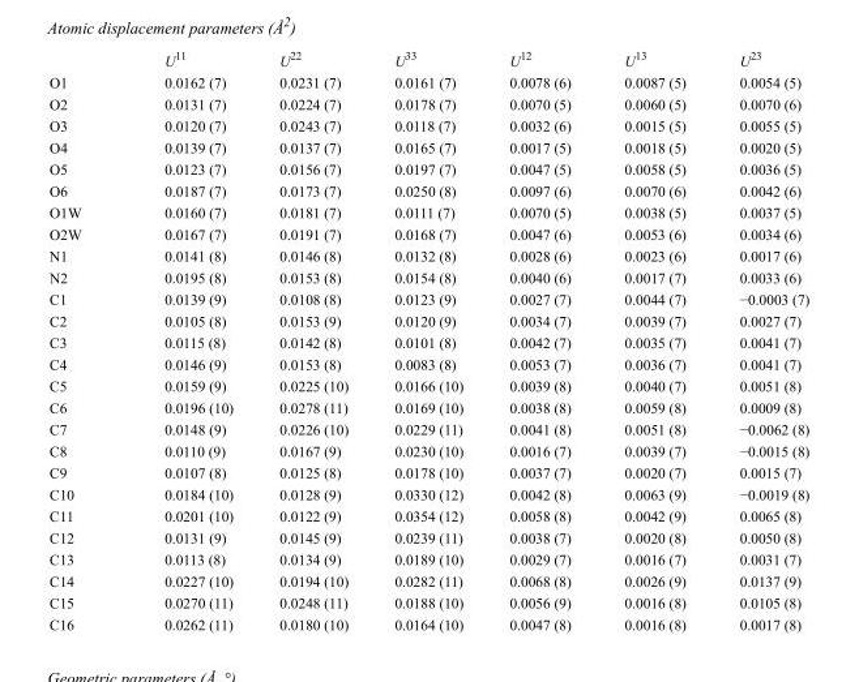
<table><thead><tr><td></td><td>U<sup>11</sup></td><td>U<sup>22</sup></td><td>U<sup>33</sup></td><td>U<sup>12</sup></td><td>U<sup>13</sup></td><td>U<sup>23</sup></td></tr></thead><tbody><tr><td>O1</td><td>0.0162 (7)</td><td>0.0231 (7)</td><td>0.0161 (7)</td><td>0.0078 (6)</td><td>0.0087 (5)</td><td>0.0054 (5)</td></tr><tr><td>O2</td><td>0.0131 (7)</td><td>0.0224 (7)</td><td>0.0178 (7)</td><td>0.0070 (5)</td><td>0.0060 (5)</td><td>0.0070 (6)</td></tr><tr><td>O3</td><td>0.0120 (7)</td><td>0.0243 (7)</td><td>0.0118 (7)</td><td>0.0032 (6)</td><td>0.0015 (5)</td><td>0.0055 (5)</td></tr><tr><td>O4</td><td>0.0139 (7)</td><td>0.0137 (7)</td><td>0.0165 (7)</td><td>0.0017 (5)</td><td>0.0018 (5)</td><td>0.0020 (5)</td></tr><tr><td>O5</td><td>0.0123 (7)</td><td>0.0156 (7)</td><td>0.0197 (7)</td><td>0.0047 (5)</td><td>0.0058 (5)</td><td>0.0036 (5)</td></tr><tr><td>O6</td><td>0.0187 (7)</td><td>0.0173 (7)</td><td>0.0250 (8)</td><td>0.0097 (6)</td><td>0.0070 (6)</td><td>0.0042 (6)</td></tr><tr><td>O1W</td><td>0.0160 (7)</td><td>0.0181 (7)</td><td>0.0111 (7)</td><td>0.0070 (5)</td><td>0.0038 (5)</td><td>0.0037 (5)</td></tr><tr><td>O2W</td><td>0.0167 (7)</td><td>0.0191 (7)</td><td>0.0168 (7)</td><td>0.0047 (6)</td><td>0.0053 (6)</td><td>0.0034 (6)</td></tr><tr><td>N1</td><td>0.0141 (8)</td><td>0.0146 (8)</td><td>0.0132 (8)</td><td>0.0028 (6)</td><td>0.0023 (6)</td><td>0.0017 (6)</td></tr><tr><td>N2</td><td>0.0195 (8)</td><td>0.0153 (8)</td><td>0.0154 (8)</td><td>0.0040 (6)</td><td>0.0017 (7)</td><td>0.0033 (6)</td></tr><tr><td>C1</td><td>0.0139 (9)</td><td>0.0108 (8)</td><td>0.0123 (9)</td><td>0.0027 (7)</td><td>0.0044 (7)</td><td>−0.0003 (7)</td></tr><tr><td>C2</td><td>0.0105 (8)</td><td>0.0153 (9)</td><td>0.0120 (9)</td><td>0.0034 (7)</td><td>0.0039 (7)</td><td>0.0027 (7)</td></tr><tr><td>C3</td><td>0.0115 (8)</td><td>0.0142 (8)</td><td>0.0101 (8)</td><td>0.0042 (7)</td><td>0.0035 (7)</td><td>0.0041 (7)</td></tr><tr><td>C4</td><td>0.0146 (9)</td><td>0.0153 (8)</td><td>0.0083 (8)</td><td>0.0053 (7)</td><td>0.0036 (7)</td><td>0.0041 (7)</td></tr><tr><td>C5</td><td>0.0159 (9)</td><td>0.0225 (10)</td><td>0.0166 (10)</td><td>0.0039 (8)</td><td>0.0040 (7)</td><td>0.0051 (8)</td></tr><tr><td>C6</td><td>0.0196 (10)</td><td>0.0278 (11)</td><td>0.0169 (10)</td><td>0.0038 (8)</td><td>0.0059 (8)</td><td>0.0009 (8)</td></tr><tr><td>C7</td><td>0.0148 (9)</td><td>0.0226 (10)</td><td>0.0229 (11)</td><td>0.0041 (8)</td><td>0.0051 (8)</td><td>−0.0062 (8)</td></tr><tr><td>C8</td><td>0.0110 (9)</td><td>0.0167 (9)</td><td>0.0230 (10)</td><td>0.0016 (7)</td><td>0.0039 (7)</td><td>−0.0015 (8)</td></tr><tr><td>C9</td><td>0.0107 (8)</td><td>0.0125 (8)</td><td>0.0178 (10)</td><td>0.0037 (7)</td><td>0.0020 (7)</td><td>0.0015 (7)</td></tr><tr><td>C10</td><td>0.0184 (10)</td><td>0.0128 (9)</td><td>0.0330 (12)</td><td>0.0042 (8)</td><td>0.0063 (9)</td><td>−0.0019 (8)</td></tr><tr><td>C11</td><td>0.0201 (10)</td><td>0.0122 (9)</td><td>0.0354 (12)</td><td>0.0058 (8)</td><td>0.0042 (9)</td><td>0.0065 (8)</td></tr><tr><td>C12</td><td>0.0131 (9)</td><td>0.0145 (9)</td><td>0.0239 (11)</td><td>0.0038 (7)</td><td>0.0020 (8)</td><td>0.0050 (8)</td></tr><tr><td>C13</td><td>0.0113 (8)</td><td>0.0134 (9)</td><td>0.0189 (10)</td><td>0.0029 (7)</td><td>0.0016 (7)</td><td>0.0031 (7)</td></tr><tr><td>C14</td><td>0.0227 (10)</td><td>0.0194 (10)</td><td>0.0282 (11)</td><td>0.0068 (8)</td><td>0.0026 (9)</td><td>0.0137 (9)</td></tr><tr><td>C15</td><td>0.0270 (11)</td><td>0.0248 (11)</td><td>0.0188 (10)</td><td>0.0056 (9)</td><td>0.0016 (8)</td><td>0.0105 (8)</td></tr><tr><td>C16</td><td>0.0262 (11)</td><td>0.0180 (10)</td><td>0.0164 (10)</td><td>0.0047 (8)</td><td>0.0016 (8)</td><td>0.0017 (8)</td></tr></tbody></table>